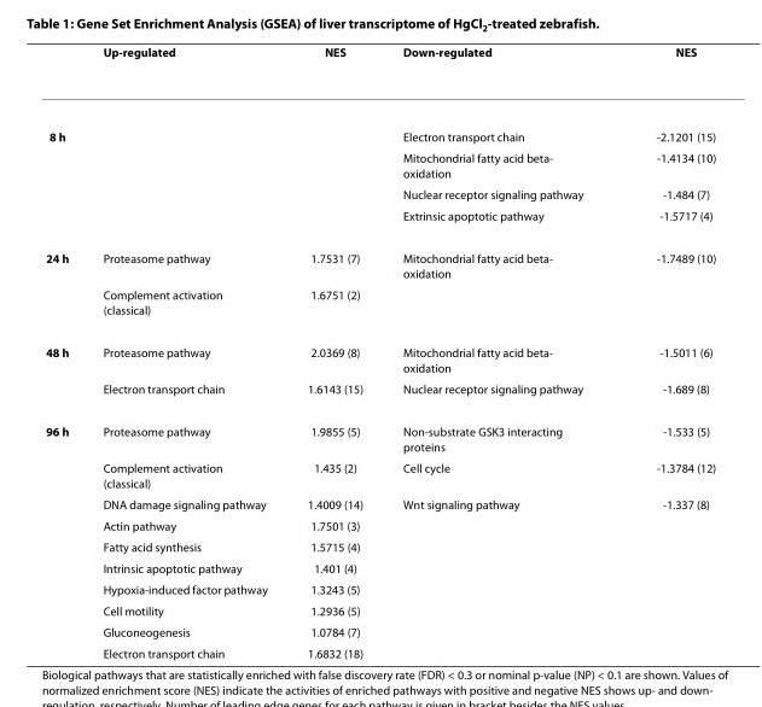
<table><thead><tr><td></td><td>Up-regulated</td><td>NES</td><td>Down-regulated</td><td>NES</td></tr></thead><tbody><tr><td rowspan="4">8 h</td><td></td><td></td><td>Electron transport chain</td><td>-2.1201 (15)</td></tr><tr><td></td><td></td><td>Mitochondrial fatty acid beta- oxidation</td><td>-1.4134 (10)</td></tr><tr><td></td><td></td><td>Nuclear receptor signaling pathway</td><td>-1.484 (7)</td></tr><tr><td></td><td></td><td>Extrinsic apoptotic pathway</td><td>-1.5717 (4)</td></tr><tr><td rowspan="2">24 h</td><td>Proteasome pathway</td><td>1.7531 (7)</td><td>Mitochondrial fatty acid beta- oxidation</td><td>-1.7489 (10)</td></tr><tr><td>Complement activation (classical)</td><td>1.6751 (2)</td><td></td><td></td></tr><tr><td rowspan="2">48 h</td><td>Proteasome pathway</td><td>2.0369 (8)</td><td>Mitochondrial fatty acid beta- oxidation</td><td>-1.5011 (6)</td></tr><tr><td>Electron transport chain</td><td>1.6143 (15)</td><td>Nuclear receptor signaling pathway</td><td>-1.689 (8)</td></tr><tr><td rowspan="10">96 h</td><td>Proteasome pathway</td><td>1.9855 (5)</td><td>Non-substrate GSK3 interacting proteins</td><td>-1.533 (5)</td></tr><tr><td>Complement activation (classical)</td><td>1.435 (2)</td><td>Cell cycle</td><td>-1.3784 (12)</td></tr><tr><td>DNA damage signaling pathway</td><td>1.4009 (14)</td><td>Wnt signaling pathway</td><td>-1.337 (8)</td></tr><tr><td>Actin pathway</td><td>1.7501 (3)</td><td></td><td></td></tr><tr><td>Fatty acid synthesis</td><td>1.5715 (4)</td><td></td><td></td></tr><tr><td>Intrinsic apoptotic pathway</td><td>1.401 (4)</td><td></td><td></td></tr><tr><td>Hypoxia-induced factor pathway</td><td>1.3243 (5)</td><td></td><td></td></tr><tr><td>Cell motility</td><td>1.2936 (5)</td><td></td><td></td></tr><tr><td>Gluconeogenesis</td><td>1.0784 (7)</td><td></td><td></td></tr><tr><td>Electron transport chain</td><td>1.6832 (18)</td><td></td><td></td></tr></tbody></table>